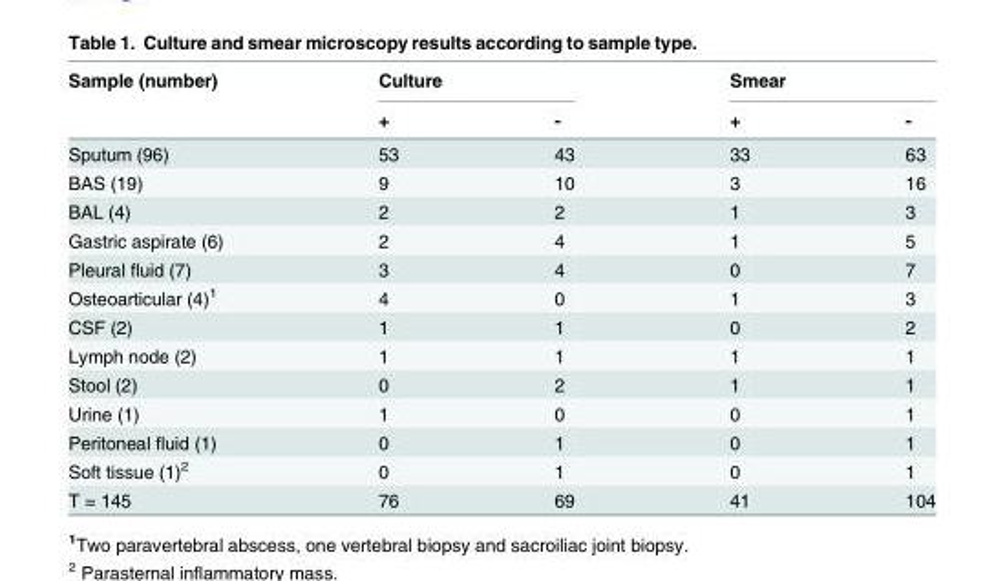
<table><thead><tr><td rowspan="2">Sample (number)</td><td colspan="2">Culture</td><td colspan="2">Smear</td></tr><tr><td>+</td><td>-</td><td>+</td><td>-</td></tr></thead><tbody><tr><td>Sputum (96)</td><td>53</td><td>43</td><td>33</td><td>63</td></tr><tr><td>BAS (19)</td><td>9</td><td>10</td><td>3</td><td>16</td></tr><tr><td>BAL (4)</td><td>2</td><td>2</td><td>1</td><td>3</td></tr><tr><td>Gastric aspirate (6)</td><td>2</td><td>4</td><td>1</td><td>5</td></tr><tr><td>Pleural fluid (7)</td><td>3</td><td>4</td><td>0</td><td>7</td></tr><tr><td>Osteoarticular (4)<sup>1</sup></td><td>4</td><td>0</td><td>1</td><td>3</td></tr><tr><td>CSF (2)</td><td>1</td><td>1</td><td>0</td><td>2</td></tr><tr><td>Lymph node (2)</td><td>1</td><td>1</td><td>1</td><td>1</td></tr><tr><td>Stool (2)</td><td>0</td><td>2</td><td>1</td><td>1</td></tr><tr><td>Urine (1)</td><td>1</td><td>0</td><td>0</td><td>1</td></tr><tr><td>Peritoneal fluid (1)</td><td>0</td><td>1</td><td>0</td><td>1</td></tr><tr><td>Soft tissue (1)<sup>2</sup></td><td>0</td><td>1</td><td>0</td><td>1</td></tr><tr><td>T = 145</td><td>76</td><td>69</td><td>41</td><td>104</td></tr></tbody></table>